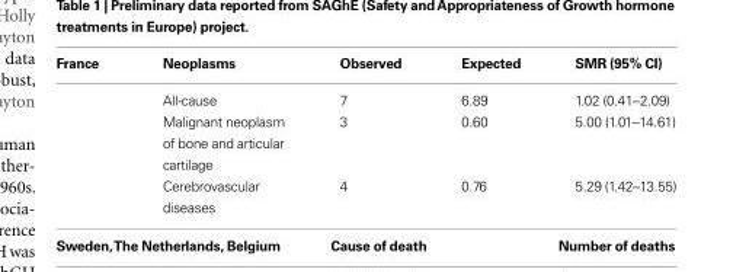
<table><thead><tr><td>France</td><td>Neoplasms</td><td>Observed</td><td>Expected</td><td>SMR (95% CI)</td></tr></thead><tbody><tr><td></td><td>All-cause</td><td>7</td><td>6.89</td><td>1.02 (0.41–2.09)</td></tr><tr><td></td><td>Malignant neoplasm</td><td>3</td><td>0.60</td><td>5.00 (1.01–14.61)</td></tr><tr><td></td><td>of bone and articular</td><td colspan="3"></td></tr><tr><td></td><td>cartilage</td><td colspan="3"></td></tr><tr><td></td><td>Cerebrovascular</td><td>4</td><td>0.76</td><td>5.29 (1.42–13.55)</td></tr><tr><td></td><td>diseases</td><td colspan="3"></td></tr></tbody></table>